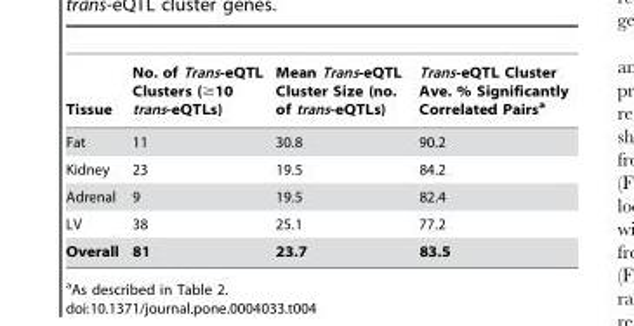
<table><thead><tr><td>Tissue</td><td>No. of Trans-eQTL Clusters (≥10 trans-eQTLs)</td><td>Mean Trans-eQTL Cluster Size (no. of trans-eQTLs)</td><td>Trans-eQTL Cluster Ave. % Significantly Correlated Pairs<sup>a</sup></td></tr></thead><tbody><tr><td>Fat</td><td>11</td><td>30.8</td><td>90.2</td></tr><tr><td>Kidney</td><td>23</td><td>19.5</td><td>84.2</td></tr><tr><td>Adrenal</td><td>9</td><td>19.5</td><td>82.4</td></tr><tr><td>LV</td><td>38</td><td>25.1</td><td>77.2</td></tr><tr><td>Overall</td><td>81</td><td>23.7</td><td>83.5</td></tr></tbody></table>